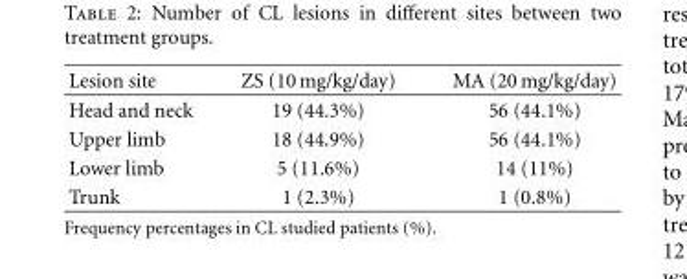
<table><thead><tr><td>Lesion site</td><td>ZS (10 mg/kg/day)</td><td>MA (20 mg/kg/day)</td></tr></thead><tbody><tr><td>Head and neck</td><td>19 (44.3%)</td><td>56 (44.1%)</td></tr><tr><td>Upper limb</td><td>18 (44.9%)</td><td>56 (44.1%)</td></tr><tr><td>Lower limb</td><td>5 (11.6%)</td><td>14 (11%)</td></tr><tr><td>Trunk</td><td>1 (2.3%)</td><td>1 (0.8%)</td></tr></tbody></table>